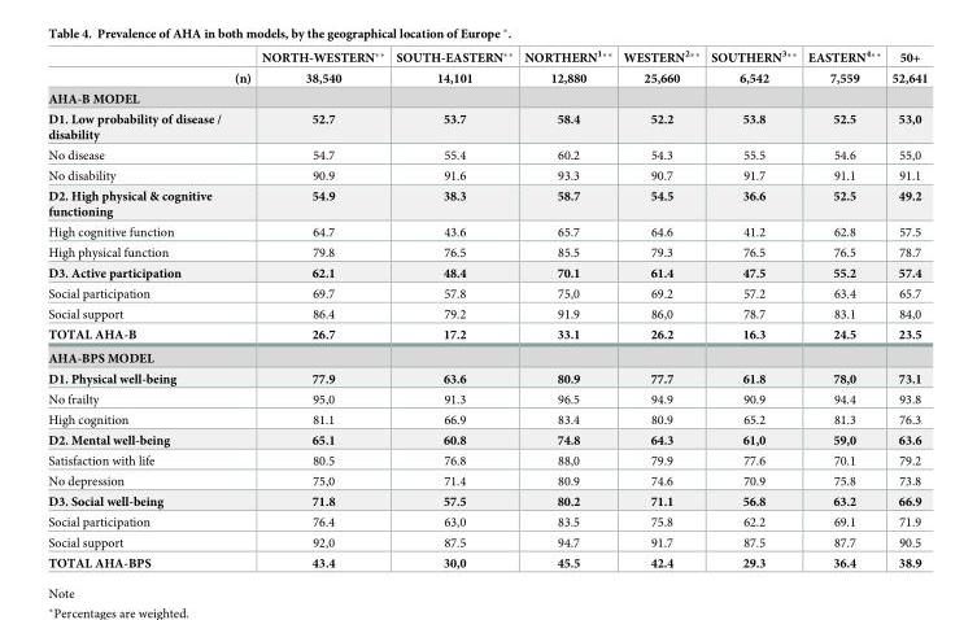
<table><thead><tr><td rowspan="2">(n)</td><td rowspan="2">NORTH-WESTERN** 38,540</td><td rowspan="2">SOUTH-EASTERN** 14,101</td><td rowspan="2">NORTHERN<sup>1</sup>** 12,880</td><td rowspan="2">WESTERN<sup>2</sup>** 25,660</td><td rowspan="2">SOUTHERN<sup>3</sup>** 6,542</td><td rowspan="2">EASTERN<sup>4</sup>** 7,559</td><td rowspan="2">50+ 52,641</td></tr><tr></tr></thead><tbody><tr><td colspan="8">AHA-B MODEL</td></tr><tr><td>D1. Low probability of disease / disability</td><td>52.7</td><td>53.7</td><td>58.4</td><td>52.2</td><td>53.8</td><td>52.5</td><td>53,0</td></tr><tr><td>No disease</td><td>54.7</td><td>55.4</td><td>60.2</td><td>54.3</td><td>55.5</td><td>54.6</td><td>55,0</td></tr><tr><td>No disability</td><td>90.9</td><td>91.6</td><td>93.3</td><td>90.7</td><td>91.7</td><td>91.1</td><td>91.1</td></tr><tr><td>D2. High physical &amp; cognitive functioning</td><td>54.9</td><td>38.3</td><td>58.7</td><td>54.5</td><td>36.6</td><td>52.5</td><td>49.2</td></tr><tr><td>High cognitive function</td><td>64.7</td><td>43.6</td><td>65.7</td><td>64.6</td><td>41.2</td><td>62.8</td><td>57.5</td></tr><tr><td>High physical function</td><td>79.8</td><td>76.5</td><td>85.5</td><td>79.3</td><td>76.5</td><td>76.5</td><td>78.7</td></tr><tr><td>D3. Active participation</td><td>62.1</td><td>48.4</td><td>70.1</td><td>61.4</td><td>47.5</td><td>55.2</td><td>57.4</td></tr><tr><td>Social participation</td><td>69.7</td><td>57.8</td><td>75,0</td><td>69.2</td><td>57.2</td><td>63.4</td><td>65.7</td></tr><tr><td>Social support</td><td>86.4</td><td>79.2</td><td>91.9</td><td>86,0</td><td>78.7</td><td>83.1</td><td>84,0</td></tr><tr><td>TOTAL AHA-B</td><td>26.7</td><td>17.2</td><td>33.1</td><td>26.2</td><td>16.3</td><td>24.5</td><td>23.5</td></tr><tr><td colspan="8">AHA-BPS MODEL</td></tr><tr><td>D1. Physical well-being</td><td>77.9</td><td>63.6</td><td>80.9</td><td>77.7</td><td>61.8</td><td>78,0</td><td>73.1</td></tr><tr><td>No frailty</td><td>95,0</td><td>91.3</td><td>96.5</td><td>94.9</td><td>90.9</td><td>94.4</td><td>93.8</td></tr><tr><td>High cognition</td><td>81.1</td><td>66.9</td><td>83.4</td><td>80.9</td><td>65.2</td><td>81.3</td><td>76.3</td></tr><tr><td>D2. Mental well-being</td><td>65.1</td><td>60.8</td><td>74.8</td><td>64.3</td><td>61,0</td><td>59,0</td><td>63.6</td></tr><tr><td>Satisfaction with life</td><td>80.5</td><td>76.8</td><td>88,0</td><td>79.9</td><td>77.6</td><td>70.1</td><td>79.2</td></tr><tr><td>No depression</td><td>75,0</td><td>71.4</td><td>80.9</td><td>74.6</td><td>70.9</td><td>75.8</td><td>73.8</td></tr><tr><td>D3. Social well-being</td><td>71.8</td><td>57.5</td><td>80.2</td><td>71.1</td><td>56.8</td><td>63.2</td><td>66.9</td></tr><tr><td>Social participation</td><td>76.4</td><td>63,0</td><td>83.5</td><td>75.8</td><td>62.2</td><td>69.1</td><td>71.9</td></tr><tr><td>Social support</td><td>92,0</td><td>87.5</td><td>94.7</td><td>91.7</td><td>87.5</td><td>87.7</td><td>90.5</td></tr><tr><td>TOTAL AHA-BPS</td><td>43.4</td><td>30,0</td><td>45.5</td><td>42.4</td><td>29.3</td><td>36.4</td><td>38.9</td></tr></tbody></table>